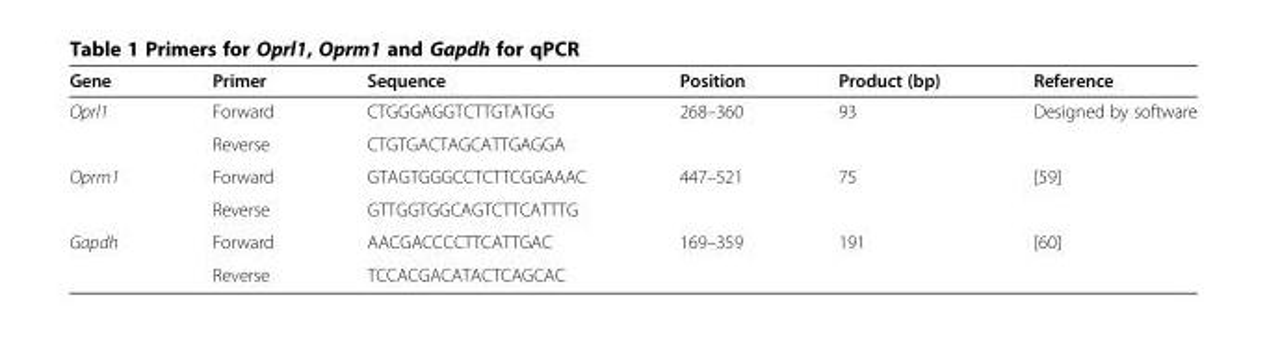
<table><thead><tr><td>Gene</td><td>Primer</td><td>Sequence</td><td>Position</td><td>Product (bp)</td><td>Reference</td></tr></thead><tbody><tr><td rowspan="2">Oprl1</td><td>Forward</td><td>CTGGGAGGTCTTGTATGG</td><td rowspan="2">268–360</td><td rowspan="2">93</td><td rowspan="2">Designed by software</td></tr><tr><td>Reverse</td><td>CTGTGACTAGCATTGAGGA</td></tr><tr><td rowspan="2">Oprm1</td><td>Forward</td><td>GTAGTGGGCCTCTTCGGAAAC</td><td rowspan="2">447–521</td><td rowspan="2">75</td><td rowspan="2">[59]</td></tr><tr><td>Reverse</td><td>GTTGGTGGCAGTCTTCATTTG</td></tr><tr><td rowspan="2">Gapdh</td><td>Forward</td><td>AACGACCCCTTCATTGAC</td><td rowspan="2">169–359</td><td rowspan="2">191</td><td rowspan="2">[60]</td></tr><tr><td>Reverse</td><td>TCCACGACATACTCAGCAC</td></tr></tbody></table>